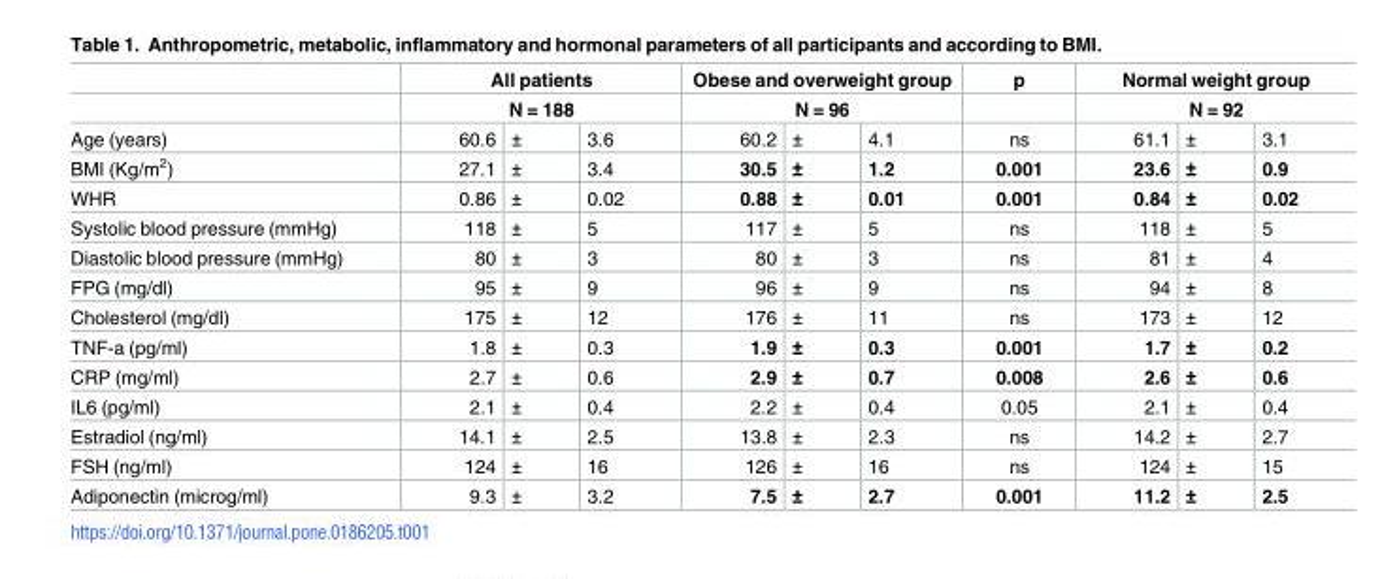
<table><thead><tr><td rowspan="3">Age (years)</td><td rowspan="2" colspan="3">All patients N = 188</td><td rowspan="2" colspan="3">Obese and overweight group N = 96</td><td rowspan="3">p ns</td><td rowspan="2" colspan="3">Normal weight group N = 92</td></tr><tr></tr><tr><td>60.6</td><td>±</td><td>3.6</td><td>60.2</td><td>±</td><td>4.1</td><td>61.1</td><td>±</td><td>3.1</td></tr></thead><tbody><tr><td>BMI (Kg/m<sup>2</sup>)</td><td>27.1</td><td>±</td><td>3.4</td><td>30.5</td><td>±</td><td>1.2</td><td>0.001</td><td>23.6</td><td>±</td><td>0.9</td></tr><tr><td>WHR</td><td>0.86</td><td>±</td><td>0.02</td><td>0.88</td><td>±</td><td>0.01</td><td>0.001</td><td>0.84</td><td>±</td><td>0.02</td></tr><tr><td>Systolic blood pressure (mmHg)</td><td>118</td><td>±</td><td>5</td><td>117</td><td>±</td><td>5</td><td>ns</td><td>118</td><td>±</td><td>5</td></tr><tr><td>Diastolic blood pressure (mmHg)</td><td>80</td><td>±</td><td>3</td><td>80</td><td>±</td><td>3</td><td>ns</td><td>81</td><td>±</td><td>4</td></tr><tr><td>FPG (mg/dl)</td><td>95</td><td>±</td><td>9</td><td>96</td><td>±</td><td>9</td><td>ns</td><td>94</td><td>±</td><td>8</td></tr><tr><td>Cholesterol (mg/dl)</td><td>175</td><td>±</td><td>12</td><td>176</td><td>±</td><td>11</td><td>ns</td><td>173</td><td>±</td><td>12</td></tr><tr><td>TNF-a (pg/ml)</td><td>1.8</td><td>±</td><td>0.3</td><td>1.9</td><td>±</td><td>0.3</td><td>0.001</td><td>1.7</td><td>±</td><td>0.2</td></tr><tr><td>CRP (mg/ml)</td><td>2.7</td><td>±</td><td>0.6</td><td>2.9</td><td>±</td><td>0.7</td><td>0.008</td><td>2.6</td><td>±</td><td>0.6</td></tr><tr><td>IL6 (pg/ml)</td><td>2.1</td><td>±</td><td>0.4</td><td>2.2</td><td>±</td><td>0.4</td><td>0.05</td><td>2.1</td><td>±</td><td>0.4</td></tr><tr><td>Estradiol (ng/ml)</td><td>14.1</td><td>±</td><td>2.5</td><td>13.8</td><td>±</td><td>2.3</td><td>ns</td><td>14.2</td><td>±</td><td>2.7</td></tr><tr><td>FSH (ng/ml)</td><td>124</td><td>±</td><td>16</td><td>126</td><td>±</td><td>16</td><td>ns</td><td>124</td><td>±</td><td>15</td></tr><tr><td>Adiponectin (microg/ml)</td><td>9.3</td><td>±</td><td>3.2</td><td>7.5</td><td>±</td><td>2.7</td><td>0.001</td><td>11.2</td><td>±</td><td>2.5</td></tr></tbody></table>